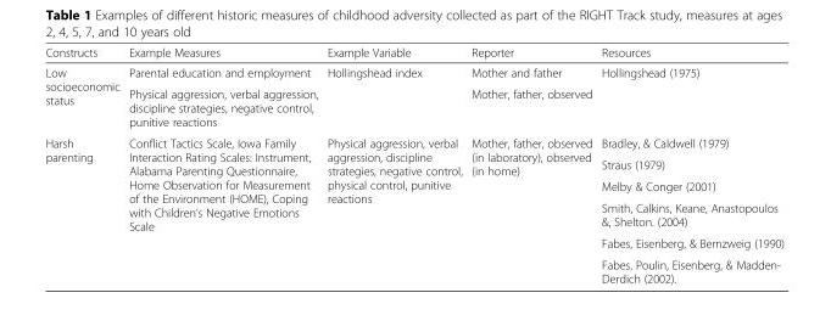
<table><thead><tr><td>Constructs</td><td>Example Measures</td><td>Example Variable</td><td>Reporter</td><td>Resources</td></tr></thead><tbody><tr><td rowspan="2">Low socioeconomic status</td><td>Parental education and employment</td><td rowspan="2">Hollingshead index</td><td>Mother and father</td><td rowspan="2">Hollingshead (1975)</td></tr><tr><td>Physical aggression, verbal aggression, discipline strategies, negative control, punitive reactions</td><td>Mother, father, observed</td></tr><tr><td rowspan="6">Harsh parenting</td><td rowspan="6">Conflict Tactics Scale, Iowa Family Interaction Rating Scales: Instrument, Alabama Parenting Questionnaire, Home Observation for Measurement of the Environment (HOME), Coping with Children’s Negative Emotions Scale</td><td rowspan="6">Physical aggression, verbal aggression, discipline strategies, negative control, physical control, punitive reactions</td><td rowspan="6">Mother, father, observed (in laboratory), observed (in home)</td><td>Bradley, &amp; Caldwell (1979)</td></tr><tr><td>Straus (1979)</td></tr><tr><td>Melby &amp; Conger (2001)</td></tr><tr><td>Smith, Calkins, Keane, Anastopoulos &amp;, Shelton. (2004)</td></tr><tr><td>Fabes, Eisenberg, &amp; Bernzweig (1990)</td></tr><tr><td>Fabes, Poulin, Eisenberg, &amp; Madden- Derdich (2002).</td></tr></tbody></table>